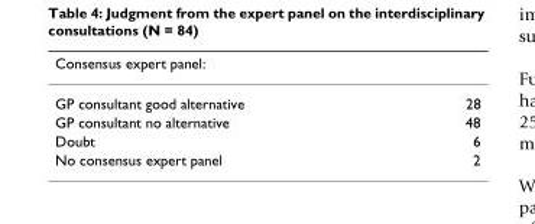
<table><thead><tr><td>Consensus expert panel:</td><td></td></tr></thead><tbody><tr><td>GP consultant good alternative</td><td>28</td></tr><tr><td>GP consultant no alternative</td><td>48</td></tr><tr><td>Doubt</td><td>6</td></tr><tr><td>No consensus expert panel</td><td>2</td></tr></tbody></table>